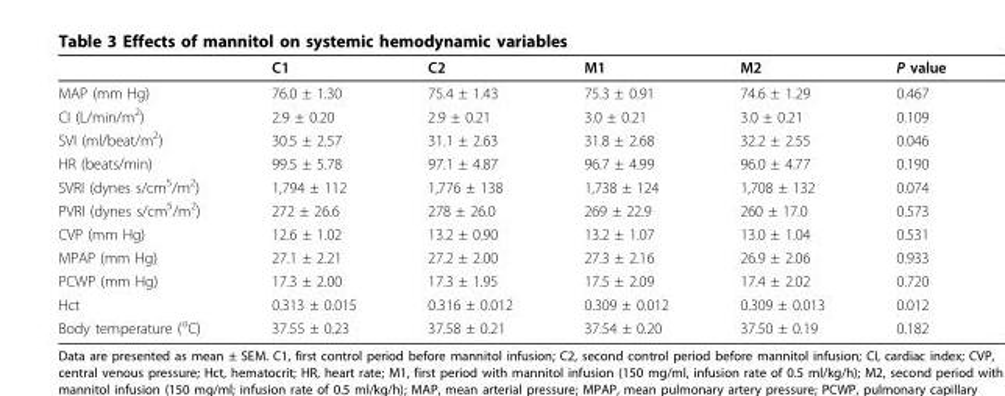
<table><thead><tr><td></td><td>C1</td><td>C2</td><td>M1</td><td>M2</td><td>P value</td></tr></thead><tbody><tr><td>MAP (mm Hg)</td><td>76.0 ± 1.30</td><td>75.4 ± 1.43</td><td>75.3 ± 0.91</td><td>74.6 ± 1.29</td><td>0.467</td></tr><tr><td>CI (L/min/m<sup>2</sup>)</td><td>2.9 ± 0.20</td><td>2.9 ± 0.21</td><td>3.0 ± 0.21</td><td>3.0 ± 0.21</td><td>0.109</td></tr><tr><td>SVI (ml/beat/m<sup>2</sup>)</td><td>30.5 ± 2.57</td><td>31.1 ± 2.63</td><td>31.8 ± 2.68</td><td>32.2 ± 2.55</td><td>0.046</td></tr><tr><td>HR (beats/min)</td><td>99.5 ± 5.78</td><td>97.1 ± 4.87</td><td>96.7 ± 4.99</td><td>96.0 ± 4.77</td><td>0.190</td></tr><tr><td>SVRI (dynes s/cm<sup>5</sup>/m<sup>2</sup>)</td><td>1,794 ± 112</td><td>1,776 ± 138</td><td>1,738 ± 124</td><td>1,708 ± 132</td><td>0.074</td></tr><tr><td>PVRI (dynes s/cm<sup>5</sup>/m<sup>2</sup>)</td><td>272 ± 26.6</td><td>278 ± 26.0</td><td>269 ± 22.9</td><td>260 ± 17.0</td><td>0.573</td></tr><tr><td>CVP (mm Hg)</td><td>12.6 ± 1.02</td><td>13.2 ± 0.90</td><td>13.2 ± 1.07</td><td>13.0 ± 1.04</td><td>0.531</td></tr><tr><td>MPAP (mm Hg)</td><td>27.1 ± 2.21</td><td>27.2 ± 2.00</td><td>27.3 ± 2.16</td><td>26.9 ± 2.06</td><td>0.933</td></tr><tr><td>PCWP (mm Hg)</td><td>17.3 ± 2.00</td><td>17.3 ± 1.95</td><td>17.5 ± 2.09</td><td>17.4 ± 2.02</td><td>0.720</td></tr><tr><td>Hct</td><td>0.313 ± 0.015</td><td>0.316 ± 0.012</td><td>0.309 ± 0.012</td><td>0.309 ± 0.013</td><td>0.012</td></tr><tr><td>Body temperature (<sup>o</sup>C)</td><td>37.55 ± 0.23</td><td>37.58 ± 0.21</td><td>37.54 ± 0.20</td><td>37.50 ± 0.19</td><td>0.182</td></tr></tbody></table>